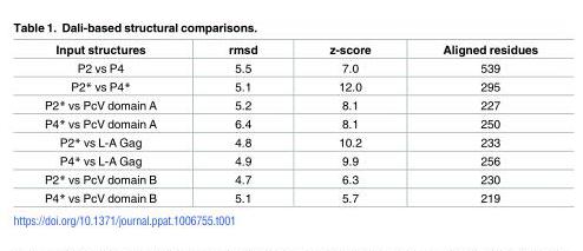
<table><thead><tr><td>Input structures</td><td>rmsd</td><td>z-score</td><td>Aligned residues</td></tr></thead><tbody><tr><td>P2 vs P4</td><td>5.5</td><td>7.0</td><td>539</td></tr><tr><td>P2* vs P4*</td><td>5.1</td><td>12.0</td><td>295</td></tr><tr><td>P2* vs PcV domain A</td><td>5.2</td><td>8.1</td><td>227</td></tr><tr><td>P4* vs PcV domain A</td><td>6.4</td><td>8.1</td><td>250</td></tr><tr><td>P2* vs L-A Gag</td><td>4.8</td><td>10.2</td><td>233</td></tr><tr><td>P4* vs L-A Gag</td><td>4.9</td><td>9.9</td><td>256</td></tr><tr><td>P2* vs PcV domain B</td><td>4.7</td><td>6.3</td><td>230</td></tr><tr><td>P4* vs PcV domain B</td><td>5.1</td><td>5.7</td><td>219</td></tr></tbody></table>